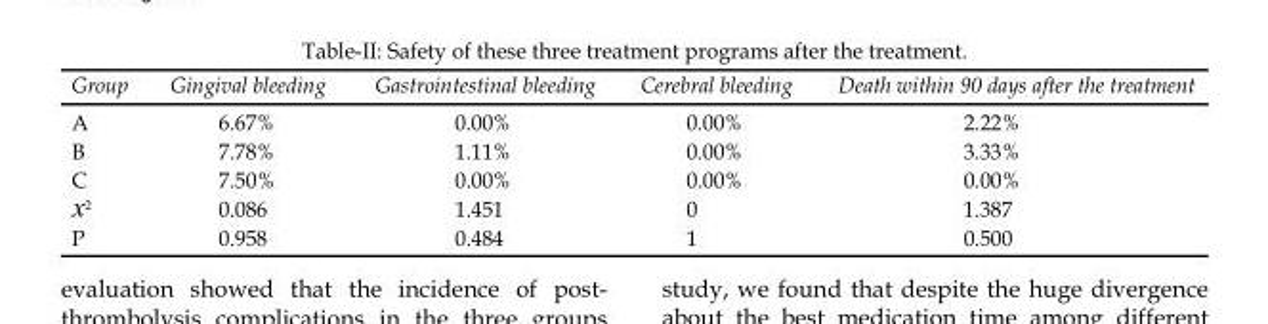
<table><thead><tr><td>Group</td><td>Gingival bleeding</td><td>Gastrointestinal bleeding</td><td>Cerebral bleeding</td><td>Death within 90 days after the treatment</td></tr></thead><tbody><tr><td>A</td><td>6.67%</td><td>0.00%</td><td>0.00%</td><td>2.22%</td></tr><tr><td>B</td><td>7.78%</td><td>1.11%</td><td>0.00%</td><td>3.33%</td></tr><tr><td>C</td><td>7.50%</td><td>0.00%</td><td>0.00%</td><td>0.00%</td></tr><tr><td>2</td><td>0.086</td><td>1.451</td><td>0</td><td>1.387</td></tr><tr><td>P</td><td>0.958</td><td>0.484</td><td>1</td><td>0.500</td></tr></tbody></table>